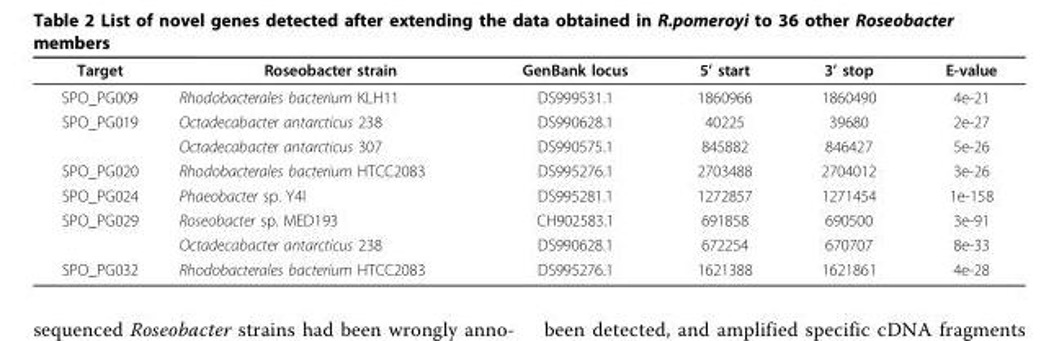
<table><thead><tr><td>Target</td><td>Roseobacter strain</td><td>GenBank locus</td><td>5’ start</td><td>3’ stop</td><td>E-value</td></tr></thead><tbody><tr><td>SPO_PG009</td><td>Rhodobacterales bacterium KLH11</td><td>DS999531.1</td><td>1860966</td><td>1860490</td><td>4e-21</td></tr><tr><td rowspan="2">SPO_PG019</td><td>Octadecabacter antarcticus 238</td><td>DS990628.1</td><td>40225</td><td>39680</td><td>2e-27</td></tr><tr><td>Octadecabacter antarcticus 307</td><td>DS990575.1</td><td>845882</td><td>846427</td><td>5e-26</td></tr><tr><td>SPO_PG020</td><td>Rhodobacterales bacterium HTCC2083</td><td>DS995276.1</td><td>2703488</td><td>2704012</td><td>3e-26</td></tr><tr><td>SPO_PG024</td><td>Phaeobacter sp. Y4I</td><td>DS995281.1</td><td>1272857</td><td>1271454</td><td>1e-158</td></tr><tr><td rowspan="2">SPO_PG029</td><td>Roseobacter sp. MED193</td><td>CH902583.1</td><td>691858</td><td>690500</td><td>3e-91</td></tr><tr><td>Octadecabacter antarcticus 238</td><td>DS990628.1</td><td>672254</td><td>670707</td><td>8e-33</td></tr><tr><td>SPO_PG032</td><td>Rhodobacterales bacterium HTCC2083</td><td>DS995276.1</td><td>1621388</td><td>1621861</td><td>4e-28</td></tr></tbody></table>